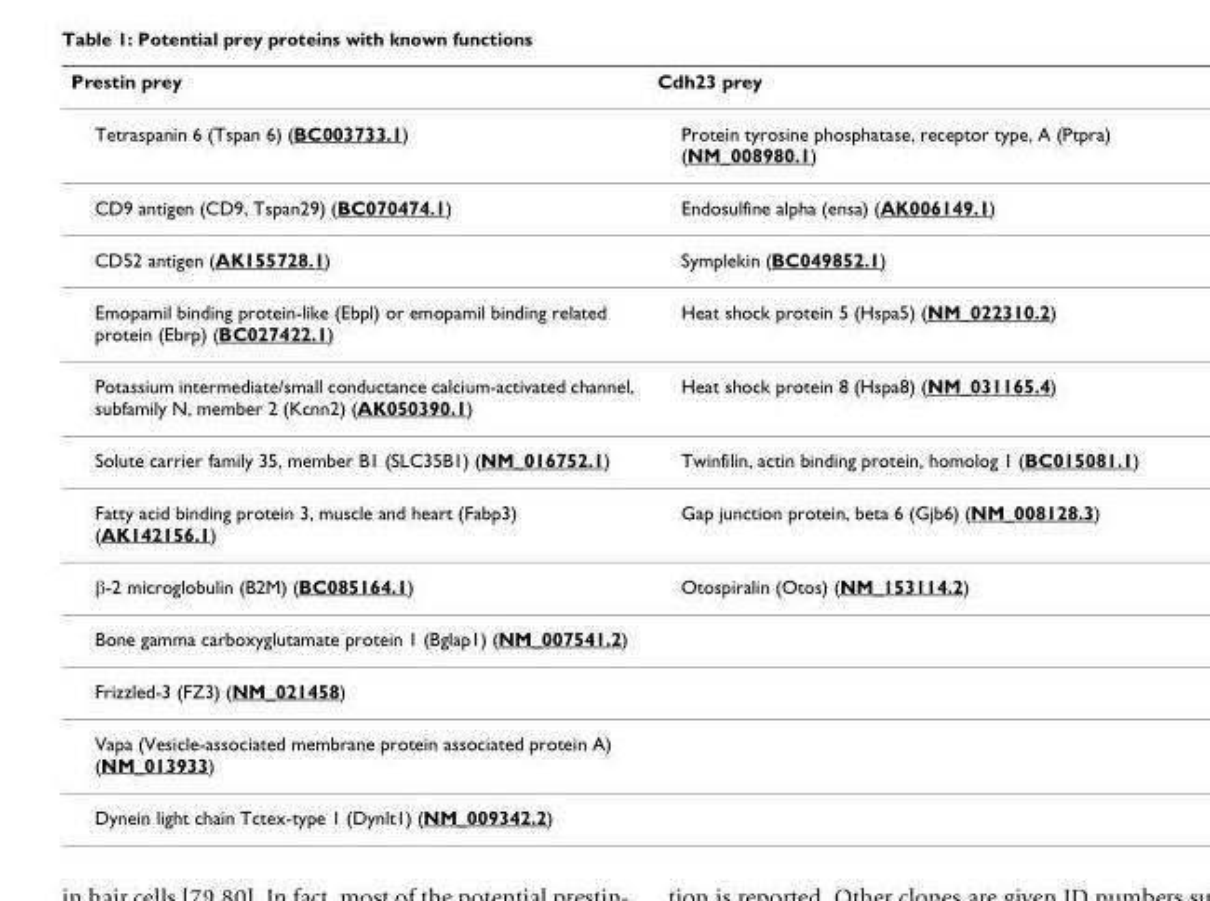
<table><thead><tr><td>Prestin prey</td><td>Cdh23 prey</td></tr></thead><tbody><tr><td>Tetraspanin 6 (Tspan 6) (BC003733.1)</td><td>Protein tyrosine phosphatase, receptor type, A (Ptpra) (NM_008980.1)</td></tr><tr><td>CD9 antigen (CD9, Tspan29) (BC070474.1)</td><td>Endosulfine alpha (ensa) (AK006149.1)</td></tr><tr><td>CD52 antigen (AK155728.1)</td><td>Symplekin (BC049852.1)</td></tr><tr><td>Emopamil binding protein-like (Ebpl) or emopamil binding related protein (Ebrp) (BC027422.1)</td><td>Heat shock protein 5 (Hspa5) (NM_022310.2)</td></tr><tr><td>Potassium intermediate/small conductance calcium-activated channel, subfamily N, member 2 (Kcnn2) (AK050390.1)</td><td>Heat shock protein 8 (Hspa8) (NM_031165.4)</td></tr><tr><td>Solute carrier family 35, member B1 (SLC35B1) (NM_016752.1)</td><td>Twinfilin, actin binding protein, homolog 1 (BC015081.1)</td></tr><tr><td>Fatty acid binding protein 3, muscle and heart (Fabp3) (AK142156.1)</td><td>Gap junction protein, beta 6 (Gjb6) (NM_008128.3)</td></tr><tr><td>β-2 microglobulin (B2M) (BC085164.1)</td><td>Otospiralin (Otos) (NM_153114.2)</td></tr><tr><td colspan="2">Bone gamma carboxyglutamate protein 1 (Bglap1) (NM_007541.2)</td></tr><tr><td colspan="2">Frizzled-3 (FZ3) (NM_021458)</td></tr><tr><td colspan="2">Vapa (Vesicle-associated membrane protein associated protein A) (NM_013933)</td></tr><tr><td>Dynein light chain Tctex-type 1 (Dynlt1) (NM_009342.2)</td><td></td></tr></tbody></table>